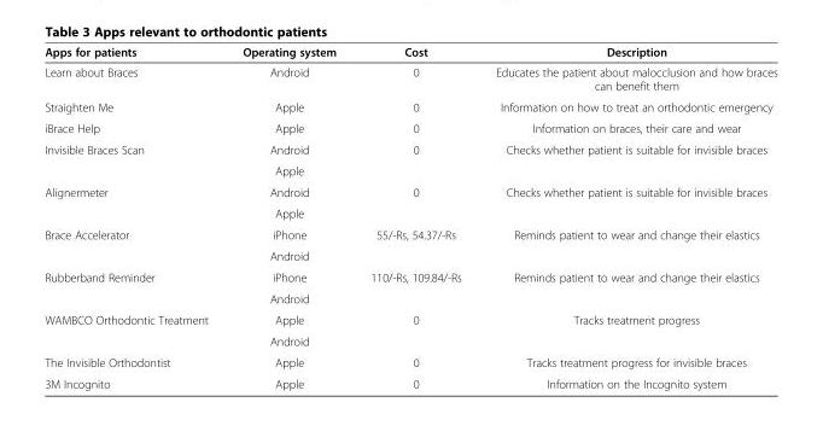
<table><thead><tr><td>Apps for patients</td><td>Operating system</td><td>Cost</td><td>Description</td></tr></thead><tbody><tr><td>Learn about Braces</td><td>Android</td><td>0</td><td>Educates the patient about malocclusion and how braces can benefit them</td></tr><tr><td>Straighten Me</td><td>Apple</td><td>0</td><td>Information on how to treat an orthodontic emergency</td></tr><tr><td>iBrace Help</td><td>Apple</td><td>0</td><td>Information on braces, their care and wear</td></tr><tr><td rowspan="2">Invisible Braces Scan</td><td>Android</td><td rowspan="2">0</td><td rowspan="2">Checks whether patient is suitable for invisible braces</td></tr><tr><td>Apple</td></tr><tr><td rowspan="2">Alignermeter</td><td>Android</td><td rowspan="2">0</td><td rowspan="2">Checks whether patient is suitable for invisible braces</td></tr><tr><td>Apple</td></tr><tr><td rowspan="2">Brace Accelerator</td><td>iPhone</td><td rowspan="2">55/-Rs, 54.37/-Rs</td><td rowspan="2">Reminds patient to wear and change their elastics</td></tr><tr><td>Android</td></tr><tr><td rowspan="2">Rubberband Reminder</td><td>iPhone</td><td rowspan="2">110/-Rs, 109.84/-Rs</td><td rowspan="2">Reminds patient to wear and change their elastics</td></tr><tr><td>Android</td></tr><tr><td rowspan="2">WAMBCO Orthodontic Treatment</td><td>Apple</td><td rowspan="2">0</td><td rowspan="2">Tracks treatment progress</td></tr><tr><td>Android</td></tr><tr><td>The Invisible Orthodontist</td><td>Apple</td><td>0</td><td>Tracks treatment progress for invisible braces</td></tr><tr><td>3M Incognito</td><td>Apple</td><td>0</td><td>Information on the Incognito system</td></tr></tbody></table>